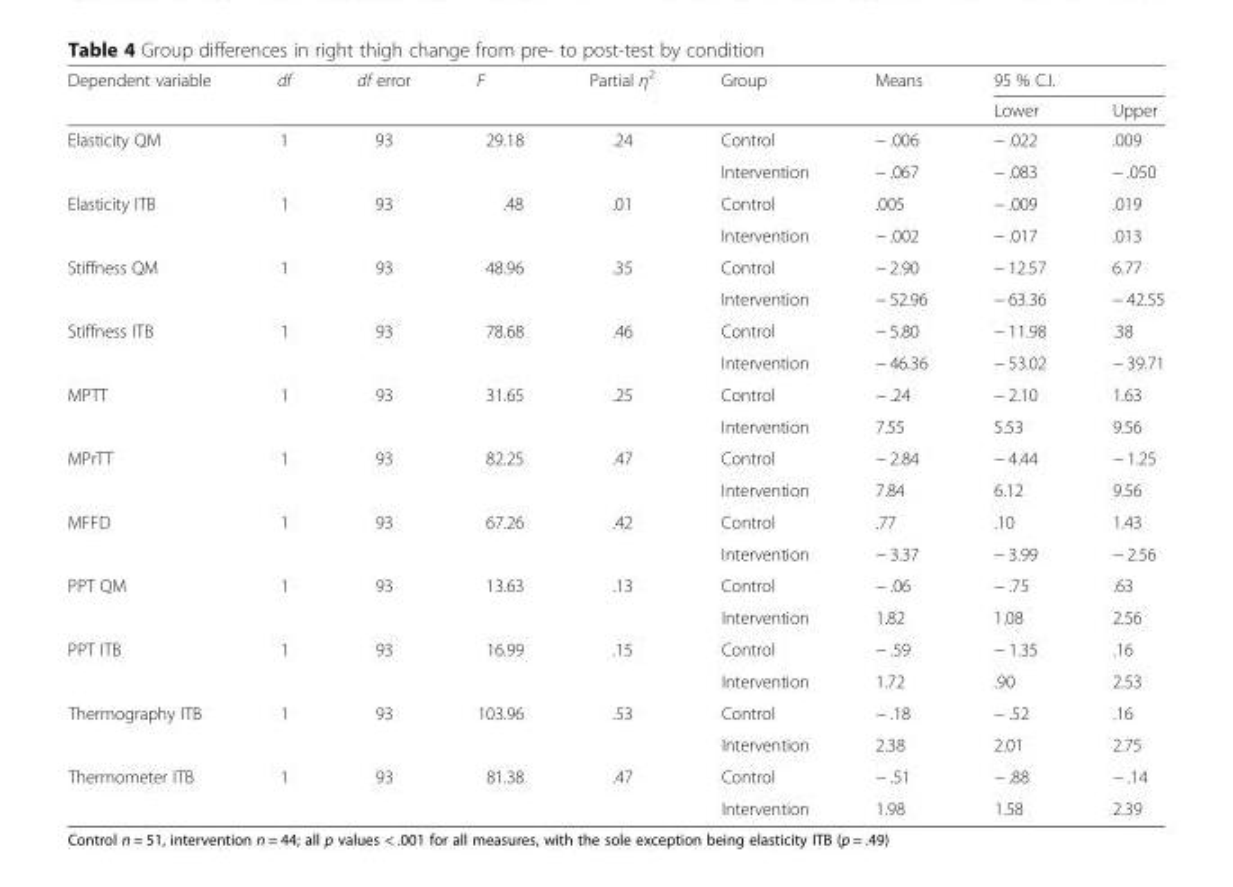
<table><thead><tr><td rowspan="2">Dependent variable</td><td rowspan="2">df</td><td rowspan="2">df error</td><td rowspan="2">F</td><td rowspan="2">Partial η<sup>2</sup></td><td rowspan="2">Group</td><td rowspan="2">Means</td><td colspan="2">95 % C.I.</td></tr><tr><td>Lower</td><td>Upper</td></tr></thead><tbody><tr><td rowspan="2">Elasticity QM</td><td rowspan="2">1</td><td rowspan="2">93</td><td rowspan="2">29.18</td><td rowspan="2">.24</td><td>Control</td><td>− .006</td><td>− .022</td><td>.009</td></tr><tr><td>Intervention</td><td>− .067</td><td>− .083</td><td>− .050</td></tr><tr><td rowspan="2">Elasticity ITB</td><td rowspan="2">1</td><td rowspan="2">93</td><td rowspan="2">.48</td><td rowspan="2">.01</td><td>Control</td><td>.005</td><td>− .009</td><td>.019</td></tr><tr><td>Intervention</td><td>− .002</td><td>− .017</td><td>.013</td></tr><tr><td rowspan="2">Stiffness QM</td><td rowspan="2">1</td><td rowspan="2">93</td><td rowspan="2">48.96</td><td rowspan="2">.35</td><td>Control</td><td>− 2.90</td><td>− 12.57</td><td>6.77</td></tr><tr><td>Intervention</td><td>− 52.96</td><td>− 63.36</td><td>− 42.55</td></tr><tr><td rowspan="2">Stiffness ITB</td><td rowspan="2">1</td><td rowspan="2">93</td><td rowspan="2">78.68</td><td rowspan="2">.46</td><td>Control</td><td>− 5.80</td><td>− 11.98</td><td>.38</td></tr><tr><td>Intervention</td><td>− 46.36</td><td>− 53.02</td><td>− 39.71</td></tr><tr><td rowspan="2">MPTT</td><td rowspan="2">1</td><td rowspan="2">93</td><td rowspan="2">31.65</td><td rowspan="2">.25</td><td>Control</td><td>− .24</td><td>− 2.10</td><td>1.63</td></tr><tr><td>Intervention</td><td>7.55</td><td>5.53</td><td>9.56</td></tr><tr><td rowspan="2">MPrTT</td><td rowspan="2">1</td><td rowspan="2">93</td><td rowspan="2">82.25</td><td rowspan="2">.47</td><td>Control</td><td>− 2.84</td><td>− 4.44</td><td>− 1.25</td></tr><tr><td>Intervention</td><td>7.84</td><td>6.12</td><td>9.56</td></tr><tr><td rowspan="2">MFFD</td><td rowspan="2">1</td><td rowspan="2">93</td><td rowspan="2">67.26</td><td rowspan="2">.42</td><td>Control</td><td>.77</td><td>.10</td><td>1.43</td></tr><tr><td>Intervention</td><td>− 3.37</td><td>− 3.99</td><td>− 2.56</td></tr><tr><td rowspan="2">PPT QM</td><td rowspan="2">1</td><td rowspan="2">93</td><td rowspan="2">13.63</td><td rowspan="2">.13</td><td>Control</td><td>− .06</td><td>− .75</td><td>.63</td></tr><tr><td>Intervention</td><td>1.82</td><td>1.08</td><td>2.56</td></tr><tr><td rowspan="2">PPT ITB</td><td rowspan="2">1</td><td rowspan="2">93</td><td rowspan="2">16.99</td><td rowspan="2">.15</td><td>Control</td><td>− .59</td><td>− 1.35</td><td>.16</td></tr><tr><td>Intervention</td><td>1.72</td><td>.90</td><td>2.53</td></tr><tr><td rowspan="2">Thermography ITB</td><td rowspan="2">1</td><td rowspan="2">93</td><td rowspan="2">103.96</td><td rowspan="2">.53</td><td>Control</td><td>− .18</td><td>− .52</td><td>.16</td></tr><tr><td>Intervention</td><td>2.38</td><td>2.01</td><td>2.75</td></tr><tr><td rowspan="2">Thermometer ITB</td><td rowspan="2">1</td><td rowspan="2">93</td><td rowspan="2">81.38</td><td rowspan="2">.47</td><td>Control</td><td>− .51</td><td>− .88</td><td>− .14</td></tr><tr><td>Intervention</td><td>1.98</td><td>1.58</td><td>2.39</td></tr></tbody></table>